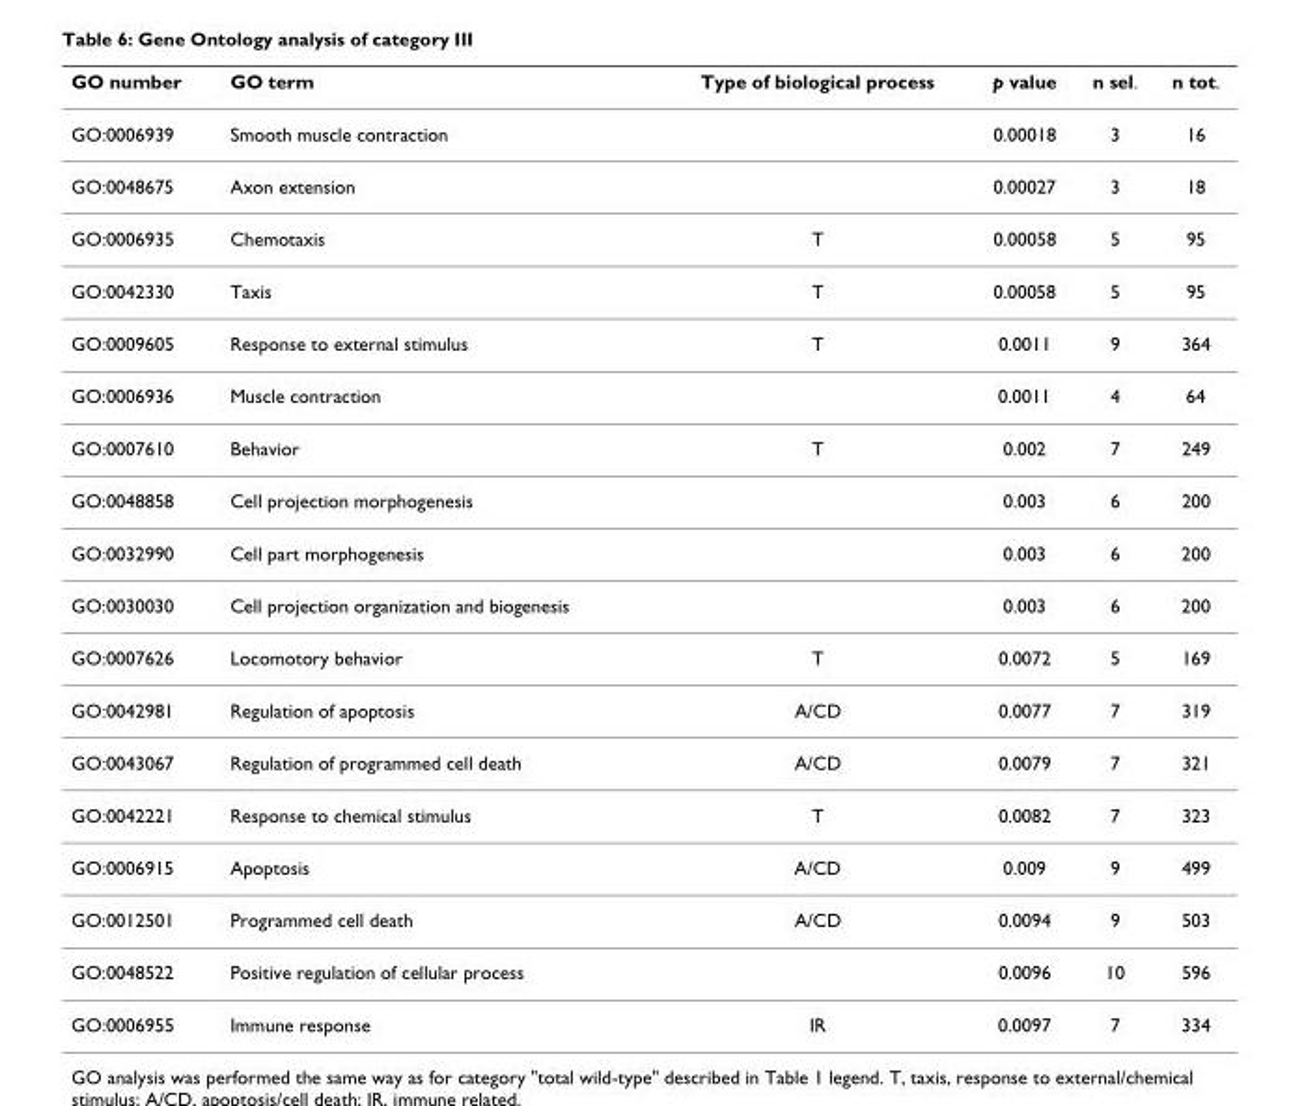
<table><thead><tr><td>GO number</td><td>GO term</td><td>Type of biological process</td><td>p value</td><td>n sel.</td><td>n tot.</td></tr></thead><tbody><tr><td>GO:0006939</td><td>Smooth muscle contraction</td><td></td><td>0.00018</td><td>3</td><td>16</td></tr><tr><td>GO:0048675</td><td>Axon extension</td><td></td><td>0.00027</td><td>3</td><td>18</td></tr><tr><td>GO:0006935</td><td>Chemotaxis</td><td>T</td><td>0.00058</td><td>5</td><td>95</td></tr><tr><td>GO:0042330</td><td>Taxis</td><td>T</td><td>0.00058</td><td>5</td><td>95</td></tr><tr><td>GO:0009605</td><td>Response to external stimulus</td><td>T</td><td>0.0011</td><td>9</td><td>364</td></tr><tr><td>GO:0006936</td><td>Muscle contraction</td><td></td><td>0.0011</td><td>4</td><td>64</td></tr><tr><td>GO:0007610</td><td>Behavior</td><td>T</td><td>0.002</td><td>7</td><td>249</td></tr><tr><td>GO:0048858</td><td>Cell projection morphogenesis</td><td></td><td>0.003</td><td>6</td><td>200</td></tr><tr><td>GO:0032990</td><td>Cell part morphogenesis</td><td></td><td>0.003</td><td>6</td><td>200</td></tr><tr><td>GO:0030030</td><td>Cell projection organization and biogenesis</td><td></td><td>0.003</td><td>6</td><td>200</td></tr><tr><td>GO:0007626</td><td>Locomotory behavior</td><td>T</td><td>0.0072</td><td>5</td><td>169</td></tr><tr><td>GO:0042981</td><td>Regulation of apoptosis</td><td>A/CD</td><td>0.0077</td><td>7</td><td>319</td></tr><tr><td>GO:0043067</td><td>Regulation of programmed cell death</td><td>A/CD</td><td>0.0079</td><td>7</td><td>321</td></tr><tr><td>GO:0042221</td><td>Response to chemical stimulus</td><td>T</td><td>0.0082</td><td>7</td><td>323</td></tr><tr><td>GO:0006915</td><td>Apoptosis</td><td>A/CD</td><td>0.009</td><td>9</td><td>499</td></tr><tr><td>GO:0012501</td><td>Programmed cell death</td><td>A/CD</td><td>0.0094</td><td>9</td><td>503</td></tr><tr><td>GO:0048522</td><td>Positive regulation of cellular process</td><td></td><td>0.0096</td><td>10</td><td>596</td></tr><tr><td>GO:0006955</td><td>Immune response</td><td>IR</td><td>0.0097</td><td>7</td><td>334</td></tr></tbody></table>